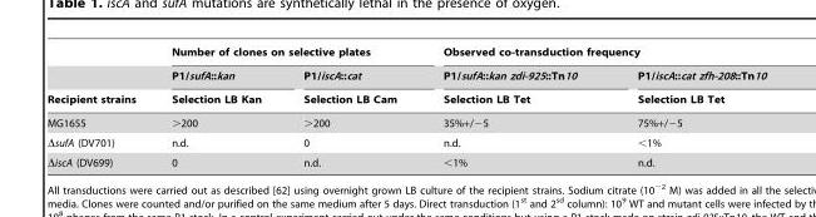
<table><thead><tr><td rowspan="3">Recipient strains</td><td colspan="2">Number of clones on selective plates</td><td colspan="2">Observed co-transduction frequency</td></tr><tr><td rowspan="2">P1/sufA::kan Selection LB Kan</td><td rowspan="2">P1/iscA::cat Selection LB Cam</td><td rowspan="2">P1/sufA::kan zdi-925::Tn10 Selection LB Tet</td><td rowspan="2">P1/iscA::cat zfh-208::Tn10 Selection LB Tet</td></tr><tr></tr></thead><tbody><tr><td>MG1655</td><td>&gt;200</td><td>&gt;200</td><td>35%+/−5</td><td>75%+/−5</td></tr><tr><td>ΔsufA (DV701)</td><td>n.d.</td><td>0</td><td>n.d.</td><td>&lt;1%</td></tr><tr><td>ΔiscA (DV699)</td><td>0</td><td>n.d.</td><td>&lt;1%</td><td>n.d.</td></tr></tbody></table>